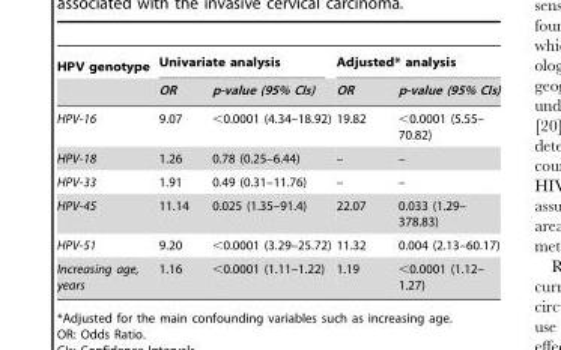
<table><thead><tr><td rowspan="2">HPV genotype</td><td colspan="2">Univariate analysis</td><td colspan="2">Adjusted* analysis</td></tr><tr><td>OR</td><td>p-value (95% CIs)</td><td>OR</td><td>p-value (95% CIs)</td></tr></thead><tbody><tr><td>HPV-16</td><td>9.07</td><td>&lt;0.0001 (4.34–18.92)</td><td>19.82</td><td>&lt;0.0001 (5.55– 70.82)</td></tr><tr><td>HPV-18</td><td>1.26</td><td>0.78 (0.25–6.44)</td><td>–</td><td>–</td></tr><tr><td>HPV-33</td><td>1.91</td><td>0.49 (0.31–11.76)</td><td>–</td><td>–</td></tr><tr><td>HPV-45</td><td>11.14</td><td>0.025 (1.35–91.4)</td><td>22.07</td><td>0.033 (1.29– 378.83)</td></tr><tr><td>HPV-51</td><td>9.20</td><td>&lt;0.0001 (3.29–25.72)</td><td>11.32</td><td>0.004 (2.13–60.17)</td></tr><tr><td>Increasing age, years</td><td>1.16</td><td>&lt;0.0001 (1.11–1.22)</td><td>1.19</td><td>&lt;0.0001 (1.12– 1.27)</td></tr></tbody></table>